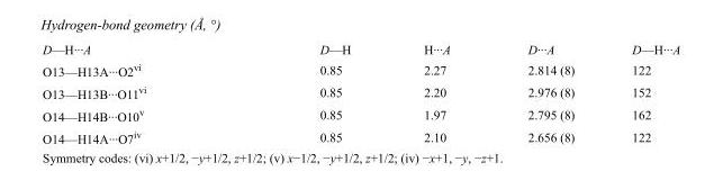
<table><tbody><tr><td>D—H···A</td><td>D—H</td><td>H···A</td><td>D···A</td><td>D—H···A</td></tr><tr><td>O13—H13A···O2<sup>vi</sup></td><td>0.85</td><td>2.27</td><td>2.814 (8)</td><td>122</td></tr><tr><td>O13—H13B···O11<sup>vi</sup></td><td>0.85</td><td>2.20</td><td>2.976 (8)</td><td>152</td></tr><tr><td>O14—H14B···O10<sup>v</sup></td><td>0.85</td><td>1.97</td><td>2.795 (8)</td><td>162</td></tr><tr><td>O14—H14A···O7<sup>iv</sup></td><td>0.85</td><td>2.10</td><td>2.656 (8)</td><td>122</td></tr></tbody></table>